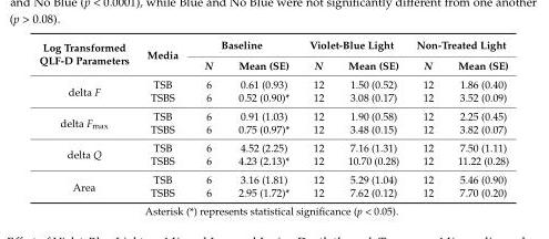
<table><thead><tr><td rowspan="2">Log Transformed QLF-D Parameters</td><td rowspan="2">Media</td><td colspan="2">Baseline</td><td colspan="2">Violet-Blue Light</td><td colspan="2">Non-Treated Light</td></tr><tr><td>N</td><td>Mean (SE)</td><td>N</td><td>Mean (SE)</td><td>N</td><td>Mean (SE)</td></tr></thead><tbody><tr><td rowspan="2">delta F</td><td>TSB</td><td>6</td><td>0.61 (0.93)</td><td>12</td><td>1.50 (0.52)</td><td>12</td><td>1.86 (0.40)</td></tr><tr><td>TSBS</td><td>6</td><td>0.52 (0.90)*</td><td>12</td><td>3.08 (0.17)</td><td>12</td><td>3.52 (0.09)</td></tr><tr><td rowspan="2">delta F<sub>max</sub></td><td>TSB</td><td>6</td><td>0.91 (1.03)</td><td>12</td><td>1.90 (0.58)</td><td>12</td><td>2.25 (0.45)</td></tr><tr><td>TSBS</td><td>6</td><td>0.75 (0.97)*</td><td>12</td><td>3.48 (0.15)</td><td>12</td><td>3.82 (0.07)</td></tr><tr><td rowspan="2">delta Q</td><td>TSB</td><td>6</td><td>4.52 (2.25)</td><td>12</td><td>7.16 (1.31)</td><td>12</td><td>7.50 (1.11)</td></tr><tr><td>TSBS</td><td>6</td><td>4.23 (2.13)*</td><td>12</td><td>10.70 (0.28)</td><td>12</td><td>11.22 (0.28)</td></tr><tr><td rowspan="2">Area</td><td>TSB</td><td>6</td><td>3.16 (1.81)</td><td>12</td><td>5.29 (1.04)</td><td>12</td><td>5.46 (0.90)</td></tr><tr><td>TSBS</td><td>6</td><td>2.95 (1.72)*</td><td>12</td><td>7.62 (0.12)</td><td>12</td><td>7.70 (0.20)</td></tr></tbody></table>